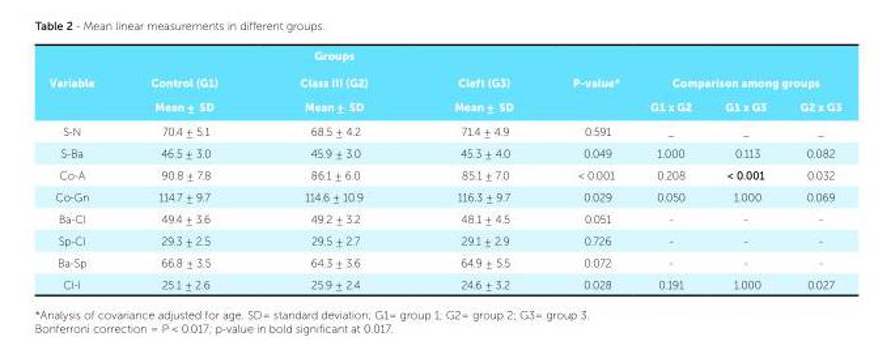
<table><thead><tr><td rowspan="3">Variable</td><td colspan="3">Groups</td><td rowspan="3">P-value*</td><td></td><td></td><td></td></tr><tr><td rowspan="2">Control (G1) Mean ± SD</td><td rowspan="2">Class III (G2) Mean ± SD</td><td rowspan="2">Cleft (G3) Mean ± SD</td><td colspan="3">Comparison among groups</td></tr><tr><td>G1 x G2</td><td>G1 x G3</td><td>G2 x G3</td></tr></thead><tbody><tr><td>S-N</td><td>70.4 ± 5.1</td><td>68.5 ± 4.2</td><td>71.4 ± 4.9</td><td>0.591</td><td>_</td><td>_</td><td>_</td></tr><tr><td>S-Ba</td><td>46.5 ± 3.0</td><td>45.9 ± 3.0</td><td>45.3 ± 4.0</td><td>0.049</td><td>1.000</td><td>0.113</td><td>0.082</td></tr><tr><td>Co-A</td><td>90.8 ± 7.8</td><td>86.1 ± 6.0</td><td>85.1 ± 7.0</td><td>&lt; 0.001</td><td>0.208</td><td>&lt; 0.001</td><td>0.032</td></tr><tr><td>Co-Gn</td><td>114.7 ± 9.7</td><td>114.6 ± 10.9</td><td>116.3 ± 9.7</td><td>0.029</td><td>0.050</td><td>1.000</td><td>0.069</td></tr><tr><td>Ba-Cl</td><td>49.4 ± 3.6</td><td>49.2 ± 3.2</td><td>48.1 ± 4.5</td><td>0.051</td><td>-</td><td>-</td><td>-</td></tr><tr><td>Sp-Cl</td><td>29.3 ± 2.5</td><td>29.5 ± 2.7</td><td>29.1 ± 2.9</td><td>0.726</td><td>-</td><td>-</td><td>-</td></tr><tr><td>Ba-Sp</td><td>66.8 ± 3.5</td><td>64.3 ± 3.6</td><td>64.9 ± 5.5</td><td>0.072</td><td>-</td><td>-</td><td>-</td></tr><tr><td>Cl-I</td><td>25.1 ± 2.6</td><td>25.9 ± 2.4</td><td>24.6 ± 3.2</td><td>0.028</td><td>0.191</td><td>1.000</td><td>0.027</td></tr></tbody></table>